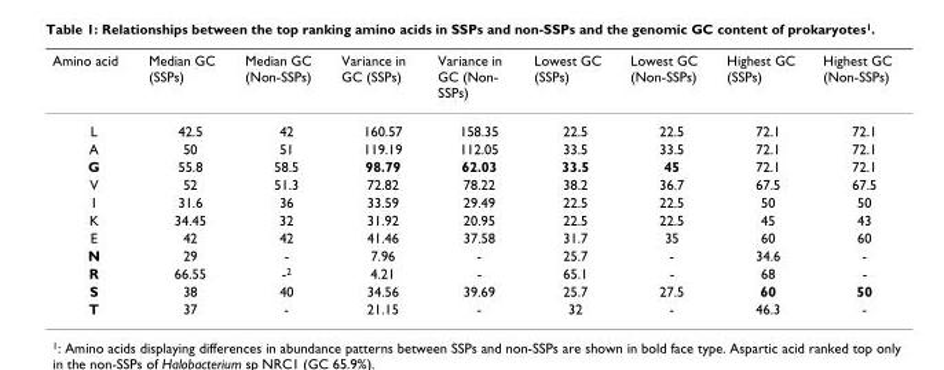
<table><thead><tr><td>Amino acid</td><td>Median GC (SSPs)</td><td>Median GC (Non-SSPs)</td><td>Variance in GC (SSPs)</td><td>Variance in GC (Non- SSPs)</td><td>Lowest GC (SSPs)</td><td>Lowest GC (Non-SSPs)</td><td>Highest GC (SSPs)</td><td>Highest GC (Non-SSPs)</td></tr></thead><tbody><tr><td>L</td><td>42.5</td><td>42</td><td>160.57</td><td>158.35</td><td>22.5</td><td>22.5</td><td>72.1</td><td>72.1</td></tr><tr><td>A</td><td>50</td><td>51</td><td>119.19</td><td>112.05</td><td>33.5</td><td>33.5</td><td>72.1</td><td>72.1</td></tr><tr><td>G</td><td>55.8</td><td>58.5</td><td>98.79</td><td>62.03</td><td>33.5</td><td>45</td><td>72.1</td><td>72.1</td></tr><tr><td>V</td><td>52</td><td>51.3</td><td>72.82</td><td>78.22</td><td>38.2</td><td>36.7</td><td>67.5</td><td>67.5</td></tr><tr><td>I</td><td>31.6</td><td>36</td><td>33.59</td><td>29.49</td><td>22.5</td><td>22.5</td><td>50</td><td>50</td></tr><tr><td>K</td><td>34.45</td><td>32</td><td>31.92</td><td>20.95</td><td>22.5</td><td>22.5</td><td>45</td><td>43</td></tr><tr><td>E</td><td>42</td><td>42</td><td>41.46</td><td>37.58</td><td>31.7</td><td>35</td><td>60</td><td>60</td></tr><tr><td>N</td><td>29</td><td>-</td><td>7.96</td><td>-</td><td>25.7</td><td>-</td><td>34.6</td><td>-</td></tr><tr><td>R</td><td>66.55</td><td>-2</td><td>4.21</td><td>-</td><td>65.1</td><td>-</td><td>68</td><td>-</td></tr><tr><td>S</td><td>38</td><td>40</td><td>34.56</td><td>39.69</td><td>25.7</td><td>27.5</td><td>60</td><td>50</td></tr><tr><td>T</td><td>37</td><td>-</td><td>21.15</td><td>-</td><td>32</td><td>-</td><td>46.3</td><td>-</td></tr></tbody></table>